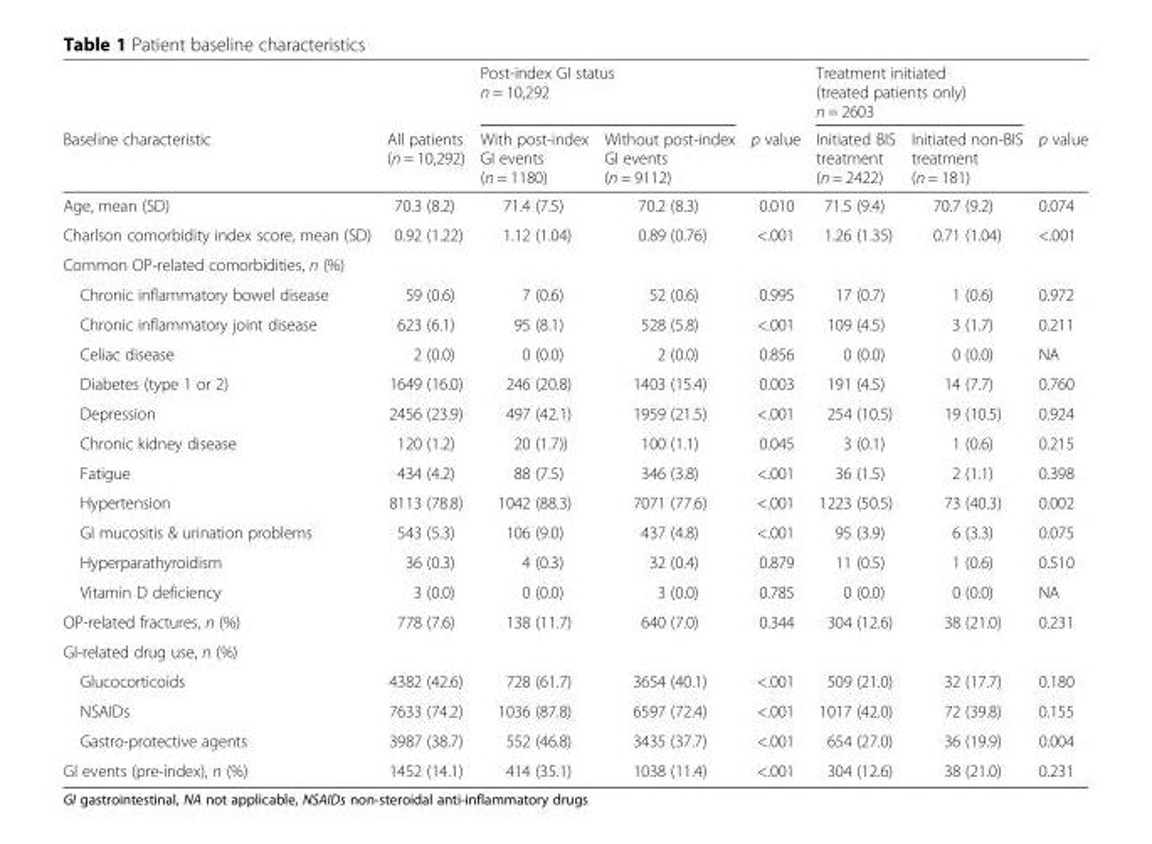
<table><thead><tr><td rowspan="2">Baseline characteristic</td><td rowspan="2">All patients (n = 10,292)</td><td colspan="2">Post-index GI status n = 10,292</td><td rowspan="2">p value</td><td colspan="2">Treatment initiated (treated patients only) n = 2603</td><td rowspan="2">p value</td></tr><tr><td>With post-index GI events (n = 1180)</td><td>Without post-index GI events (n = 9112)</td><td>Initiated BIS treatment (n = 2422)</td><td>Initiated non-BIS treatment (n = 181)</td></tr></thead><tbody><tr><td>Age, mean (SD)</td><td>70.3 (8.2)</td><td>71.4 (7.5)</td><td>70.2 (8.3)</td><td>0.010</td><td>71.5 (9.4)</td><td>70.7 (9.2)</td><td>0.074</td></tr><tr><td>Charlson comorbidity index score, mean (SD)</td><td>0.92 (1.22)</td><td>1.12 (1.04)</td><td>0.89 (0.76)</td><td>&lt;.001</td><td>1.26 (1.35)</td><td>0.71 (1.04)</td><td>&lt;.001</td></tr><tr><td colspan="8">Common OP-related comorbidities, n (%)</td></tr><tr><td>Chronic inflammatory bowel disease</td><td>59 (0.6)</td><td>7 (0.6)</td><td>52 (0.6)</td><td>0.995</td><td>17 (0.7)</td><td>1 (0.6)</td><td>0.972</td></tr><tr><td>Chronic inflammatory joint disease</td><td>623 (6.1)</td><td>95 (8.1)</td><td>528 (5.8)</td><td>&lt;.001</td><td>109 (4.5)</td><td>3 (1.7)</td><td>0.211</td></tr><tr><td>Celiac disease</td><td>2 (0.0)</td><td>0 (0.0)</td><td>2 (0.0)</td><td>0.856</td><td>0 (0.0)</td><td>0 (0.0)</td><td>NA</td></tr><tr><td>Diabetes (type 1 or 2)</td><td>1649 (16.0)</td><td>246 (20.8)</td><td>1403 (15.4)</td><td>0.003</td><td>191 (4.5)</td><td>14 (7.7)</td><td>0.760</td></tr><tr><td>Depression</td><td>2456 (23.9)</td><td>497 (42.1)</td><td>1959 (21.5)</td><td>&lt;.001</td><td>254 (10.5)</td><td>19 (10.5)</td><td>0.924</td></tr><tr><td>Chronic kidney disease</td><td>120 (1.2)</td><td>20 (1.7))</td><td>100 (1.1)</td><td>0.045</td><td>3 (0.1)</td><td>1 (0.6)</td><td>0.215</td></tr><tr><td>Fatigue</td><td>434 (4.2)</td><td>88 (7.5)</td><td>346 (3.8)</td><td>&lt;.001</td><td>36 (1.5)</td><td>2 (1.1)</td><td>0.398</td></tr><tr><td>Hypertension</td><td>8113 (78.8)</td><td>1042 (88.3)</td><td>7071 (77.6)</td><td>&lt;.001</td><td>1223 (50.5)</td><td>73 (40.3)</td><td>0.002</td></tr><tr><td>GI mucositis &amp; urination problems</td><td>543 (5.3)</td><td>106 (9.0)</td><td>437 (4.8)</td><td>&lt;.001</td><td>95 (3.9)</td><td>6 (3.3)</td><td>0.075</td></tr><tr><td>Hyperparathyroidism</td><td>36 (0.3)</td><td>4 (0.3)</td><td>32 (0.4)</td><td>0.879</td><td>11 (0.5)</td><td>1 (0.6)</td><td>0.510</td></tr><tr><td>Vitamin D deficiency</td><td>3 (0.0)</td><td>0 (0.0)</td><td>3 (0.0)</td><td>0.785</td><td>0 (0.0)</td><td>0 (0.0)</td><td>NA</td></tr><tr><td>OP-related fractures, n (%)</td><td>778 (7.6)</td><td>138 (11.7)</td><td>640 (7.0)</td><td>0.344</td><td>304 (12.6)</td><td>38 (21.0)</td><td>0.231</td></tr><tr><td colspan="8">GI-related drug use, n (%)</td></tr><tr><td>Glucocorticoids</td><td>4382 (42.6)</td><td>728 (61.7)</td><td>3654 (40.1)</td><td>&lt;.001</td><td>509 (21.0)</td><td>32 (17.7)</td><td>0.180</td></tr><tr><td>NSAIDs</td><td>7633 (74.2)</td><td>1036 (87.8)</td><td>6597 (72.4)</td><td>&lt;.001</td><td>1017 (42.0)</td><td>72 (39.8)</td><td>0.155</td></tr><tr><td>Gastro-protective agents</td><td>3987 (38.7)</td><td>552 (46.8)</td><td>3435 (37.7)</td><td>&lt;.001</td><td>654 (27.0)</td><td>36 (19.9)</td><td>0.004</td></tr><tr><td>GI events (pre-index), n (%)</td><td>1452 (14.1)</td><td>414 (35.1)</td><td>1038 (11.4)</td><td>&lt;.001</td><td>304 (12.6)</td><td>38 (21.0)</td><td>0.231</td></tr></tbody></table>